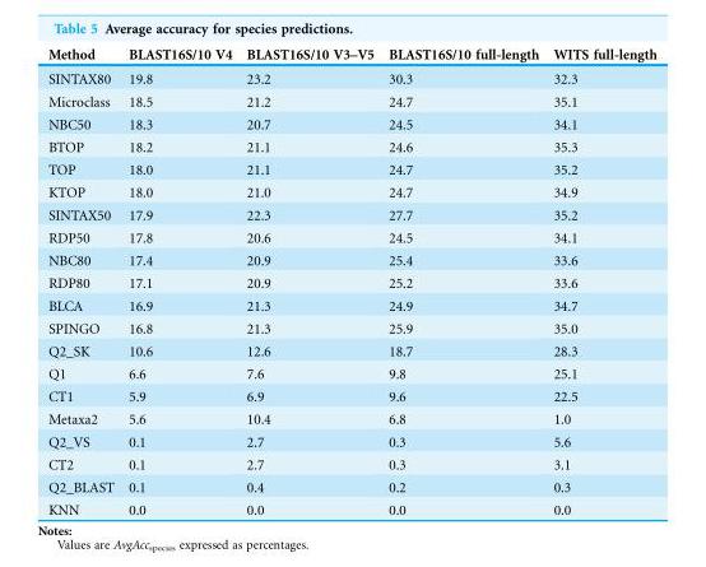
<table><thead><tr><td>Method</td><td>BLAST16S/10 V4</td><td>BLAST16S/10 V3–V5</td><td>BLAST16S/10 full-length</td><td>WITS full-length</td></tr></thead><tbody><tr><td>SINTAX80</td><td>19.8</td><td>23.2</td><td>30.3</td><td>32.3</td></tr><tr><td>Microclass</td><td>18.5</td><td>21.2</td><td>24.7</td><td>35.1</td></tr><tr><td>NBC50</td><td>18.3</td><td>20.7</td><td>24.5</td><td>34.1</td></tr><tr><td>BTOP</td><td>18.2</td><td>21.1</td><td>24.6</td><td>35.3</td></tr><tr><td>TOP</td><td>18.0</td><td>21.1</td><td>24.7</td><td>35.2</td></tr><tr><td>KTOP</td><td>18.0</td><td>21.0</td><td>24.7</td><td>34.9</td></tr><tr><td>SINTAX50</td><td>17.9</td><td>22.3</td><td>27.7</td><td>35.2</td></tr><tr><td>RDP50</td><td>17.8</td><td>20.6</td><td>24.5</td><td>34.1</td></tr><tr><td>NBC80</td><td>17.4</td><td>20.9</td><td>25.4</td><td>33.6</td></tr><tr><td>RDP80</td><td>17.1</td><td>20.9</td><td>25.2</td><td>33.6</td></tr><tr><td>BLCA</td><td>16.9</td><td>21.3</td><td>24.9</td><td>34.7</td></tr><tr><td>SPINGO</td><td>16.8</td><td>21.3</td><td>25.9</td><td>35.0</td></tr><tr><td>Q2_SK</td><td>10.6</td><td>12.6</td><td>18.7</td><td>28.3</td></tr><tr><td>Q1</td><td>6.6</td><td>7.6</td><td>9.8</td><td>25.1</td></tr><tr><td>CT1</td><td>5.9</td><td>6.9</td><td>9.6</td><td>22.5</td></tr><tr><td>Metaxa2</td><td>5.6</td><td>10.4</td><td>6.8</td><td>1.0</td></tr><tr><td>Q2_VS</td><td>0.1</td><td>2.7</td><td>0.3</td><td>5.6</td></tr><tr><td>CT2</td><td>0.1</td><td>2.7</td><td>0.3</td><td>3.1</td></tr><tr><td>Q2_BLAST</td><td>0.1</td><td>0.4</td><td>0.2</td><td>0.3</td></tr><tr><td>KNN</td><td>0.0</td><td>0.0</td><td>0.0</td><td>0.0</td></tr></tbody></table>